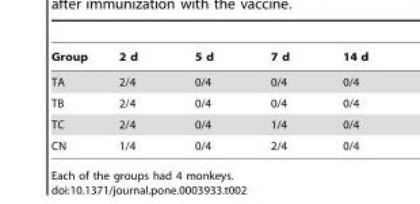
<table><thead><tr><td>Group</td><td>2 d</td><td>5 d</td><td>7 d</td><td>14 d</td></tr></thead><tbody><tr><td>TA</td><td>2/4</td><td>0/4</td><td>0/4</td><td>0/4</td></tr><tr><td>TB</td><td>2/4</td><td>0/4</td><td>0/4</td><td>0/4</td></tr><tr><td>TC</td><td>2/4</td><td>0/4</td><td>1/4</td><td>0/4</td></tr><tr><td>CN</td><td>1/4</td><td>0/4</td><td>2/4</td><td>0/4</td></tr></tbody></table>